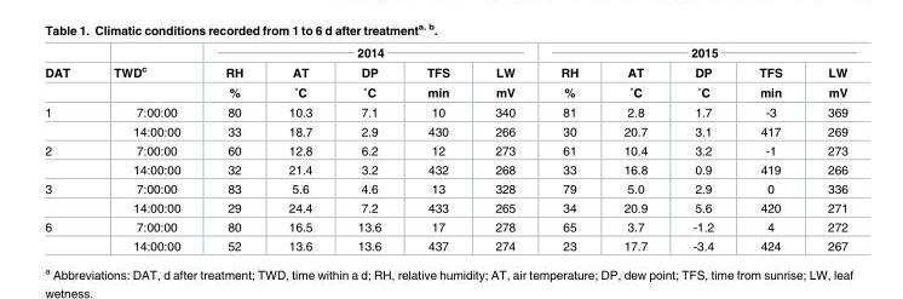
<table><thead><tr><td rowspan="3">DAT</td><td rowspan="3">TWD<sup>c</sup></td><td colspan="5">___________________________ 2014 ___________________________</td><td colspan="5">___________________________ 2015 ___________________________</td></tr><tr><td rowspan="2">RH %</td><td rowspan="2">AT ˚C</td><td rowspan="2">DP ˚C</td><td rowspan="2">TFS min</td><td rowspan="2">LW mV</td><td rowspan="2">RH %</td><td rowspan="2">AT ˚C</td><td rowspan="2">DP ˚C</td><td rowspan="2">TFS min</td><td rowspan="2">LW mV</td></tr><tr></tr></thead><tbody><tr><td rowspan="2">1</td><td>7:00:00</td><td>80</td><td>10.3</td><td>7.1</td><td>10</td><td>340</td><td>81</td><td>2.8</td><td>1.7</td><td>-3</td><td>369</td></tr><tr><td>14:00:00</td><td>33</td><td>18.7</td><td>2.9</td><td>430</td><td>266</td><td>30</td><td>20.7</td><td>3.1</td><td>417</td><td>269</td></tr><tr><td rowspan="2">2</td><td>7:00:00</td><td>60</td><td>12.8</td><td>6.2</td><td>12</td><td>273</td><td>61</td><td>10.4</td><td>3.2</td><td>-1</td><td>273</td></tr><tr><td>14:00:00</td><td>32</td><td>21.4</td><td>3.2</td><td>432</td><td>268</td><td>33</td><td>16.8</td><td>0.9</td><td>419</td><td>266</td></tr><tr><td rowspan="2">3</td><td>7:00:00</td><td>83</td><td>5.6</td><td>4.6</td><td>13</td><td>328</td><td>79</td><td>5.0</td><td>2.9</td><td>0</td><td>336</td></tr><tr><td>14:00:00</td><td>29</td><td>24.4</td><td>7.2</td><td>433</td><td>265</td><td>34</td><td>20.9</td><td>5.6</td><td>420</td><td>271</td></tr><tr><td rowspan="2">6</td><td>7:00:00</td><td>80</td><td>16.5</td><td>13.6</td><td>17</td><td>278</td><td>65</td><td>3.7</td><td>-1.2</td><td>4</td><td>272</td></tr><tr><td>14:00:00</td><td>52</td><td>13.6</td><td>13.6</td><td>437</td><td>274</td><td>23</td><td>17.7</td><td>-3.4</td><td>424</td><td>267</td></tr></tbody></table>